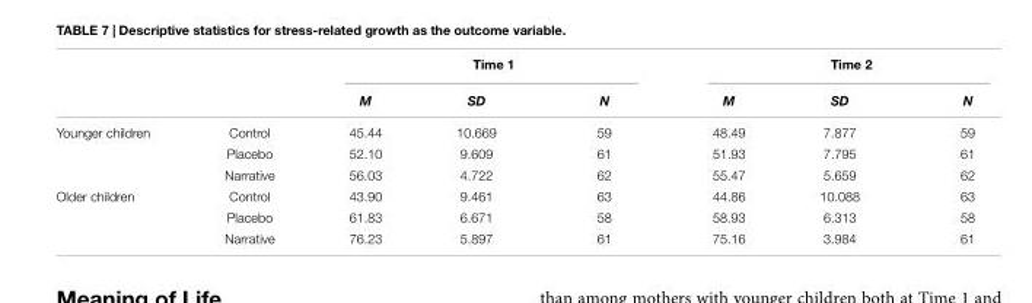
<table><thead><tr><td rowspan="2"></td><td rowspan="2"></td><td colspan="3">Time 1</td><td colspan="3">Time 2</td></tr><tr><td>M</td><td>SD</td><td>N</td><td>M</td><td>SD</td><td>N</td></tr></thead><tbody><tr><td rowspan="3">Younger children</td><td>Control</td><td>45.44</td><td>10.669</td><td>59</td><td>48.49</td><td>7.877</td><td>59</td></tr><tr><td>Placebo</td><td>52.10</td><td>9.609</td><td>61</td><td>51.93</td><td>7.795</td><td>61</td></tr><tr><td>Narrative</td><td>56.03</td><td>4.722</td><td>62</td><td>55.47</td><td>5.659</td><td>62</td></tr><tr><td rowspan="3">Older children</td><td>Control</td><td>43.90</td><td>9.461</td><td>63</td><td>44.86</td><td>10.088</td><td>63</td></tr><tr><td>Placebo</td><td>61.83</td><td>6.671</td><td>58</td><td>58.93</td><td>6.313</td><td>58</td></tr><tr><td>Narrative</td><td>76.23</td><td>5.897</td><td>61</td><td>75.16</td><td>3.984</td><td>61</td></tr></tbody></table>